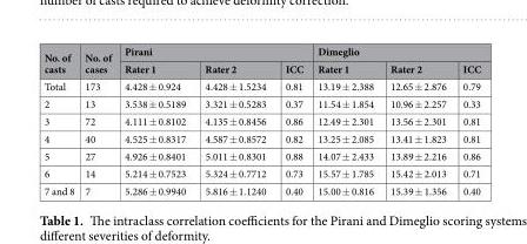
<table><thead><tr><td rowspan="2">No. of casts</td><td rowspan="2">No. of cases</td><td colspan="3">Pirani</td><td colspan="3">Dimeglio</td></tr><tr><td>Rater 1</td><td>Rater 2</td><td>ICC</td><td>Rater 1</td><td>Rater 2</td><td>ICC</td></tr></thead><tbody><tr><td>Total</td><td>173</td><td>4.428 ± 0.924</td><td>4.428 ± 1.5234</td><td>0.81</td><td>13.19 ± 2.388</td><td>12.65 ± 2.876</td><td>0.79</td></tr><tr><td>2</td><td>13</td><td>3.538 ± 0.5189</td><td>3.321 ± 0.5283</td><td>0.37</td><td>11.54 ± 1.854</td><td>10.96 ± 2.257</td><td>0.33</td></tr><tr><td>3</td><td>72</td><td>4.111 ± 0.8102</td><td>4.135 ± 0.8456</td><td>0.86</td><td>12.49 ± 2.301</td><td>13.56 ± 2.301</td><td>0.81</td></tr><tr><td>4</td><td>40</td><td>4.525 ± 0.8317</td><td>4.587 ± 0.8572</td><td>0.82</td><td>13.25 ± 2.085</td><td>13.41 ± 1.823</td><td>0.81</td></tr><tr><td>5</td><td>27</td><td>4.926 ± 0.8401</td><td>5.011 ± 0.8301</td><td>0.88</td><td>14.07 ± 2.433</td><td>13.89 ± 2.216</td><td>0.86</td></tr><tr><td>6</td><td>14</td><td>5.214 ± 0.7523</td><td>5.324 ± 0.7712</td><td>0.73</td><td>15.57 ± 1.785</td><td>15.42 ± 2.013</td><td>0.71</td></tr><tr><td>7 and 8</td><td>7</td><td>5.286 ± 0.9940</td><td>5.816 ± 1.1240</td><td>0.40</td><td>15.00 ± 0.816</td><td>15.39 ± 1.356</td><td>0.40</td></tr></tbody></table>